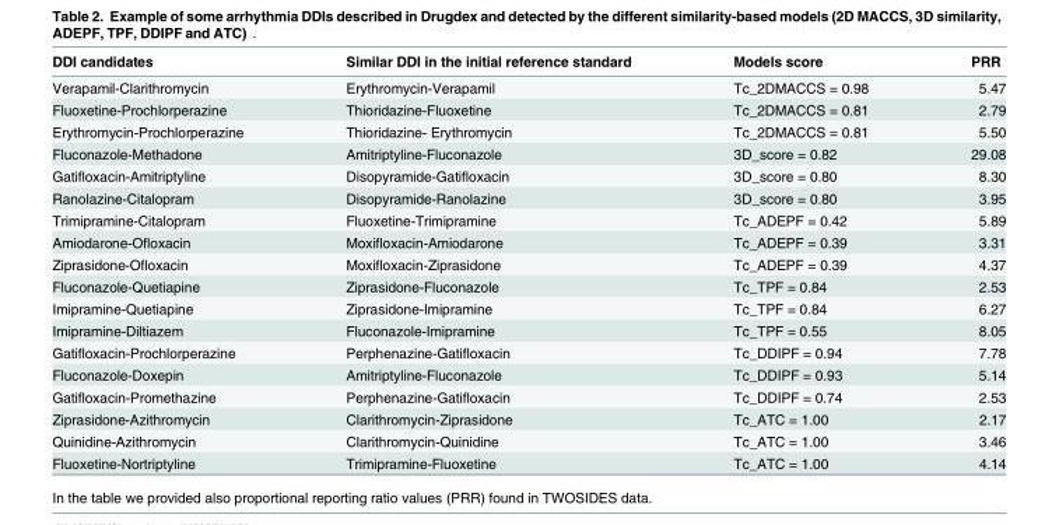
<table><thead><tr><td>DDI candidates</td><td>Similar DDI in the initial reference standard</td><td>Models score</td><td>PRR</td></tr></thead><tbody><tr><td>Verapamil-Clarithromycin</td><td>Erythromycin-Verapamil</td><td>Tc_2DMACCS = 0.98</td><td>5.47</td></tr><tr><td>Fluoxetine-Prochlorperazine</td><td>Thioridazine-Fluoxetine</td><td>Tc_2DMACCS = 0.81</td><td>2.79</td></tr><tr><td>Erythromycin-Prochlorperazine</td><td>Thioridazine- Erythromycin</td><td>Tc_2DMACCS = 0.81</td><td>5.50</td></tr><tr><td>Fluconazole-Methadone</td><td>Amitriptyline-Fluconazole</td><td>3D_score = 0.82</td><td>29.08</td></tr><tr><td>Gatifloxacin-Amitriptyline</td><td>Disopyramide-Gatifloxacin</td><td>3D_score = 0.80</td><td>8.30</td></tr><tr><td>Ranolazine-Citalopram</td><td>Disopyramide-Ranolazine</td><td>3D_score = 0.80</td><td>3.95</td></tr><tr><td>Trimipramine-Citalopram</td><td>Fluoxetine-Trimipramine</td><td>Tc_ADEPF = 0.42</td><td>5.89</td></tr><tr><td>Amiodarone-Ofloxacin</td><td>Moxifloxacin-Amiodarone</td><td>Tc_ADEPF = 0.39</td><td>3.31</td></tr><tr><td>Ziprasidone-Ofloxacin</td><td>Moxifloxacin-Ziprasidone</td><td>Tc_ADEPF = 0.39</td><td>4.37</td></tr><tr><td>Fluconazole-Quetiapine</td><td>Ziprasidone-Fluconazole</td><td>Tc_TPF = 0.84</td><td>2.53</td></tr><tr><td>Imipramine-Quetiapine</td><td>Ziprasidone-Imipramine</td><td>Tc_TPF = 0.84</td><td>6.27</td></tr><tr><td>Imipramine-Diltiazem</td><td>Fluconazole-Imipramine</td><td>Tc_TPF = 0.55</td><td>8.05</td></tr><tr><td>Gatifloxacin-Prochlorperazine</td><td>Perphenazine-Gatifloxacin</td><td>Tc_DDIPF = 0.94</td><td>7.78</td></tr><tr><td>Fluconazole-Doxepin</td><td>Amitriptyline-Fluconazole</td><td>Tc_DDIPF = 0.93</td><td>5.14</td></tr><tr><td>Gatifloxacin-Promethazine</td><td>Perphenazine-Gatifloxacin</td><td>Tc_DDIPF = 0.74</td><td>2.53</td></tr><tr><td>Ziprasidone-Azithromycin</td><td>Clarithromycin-Ziprasidone</td><td>Tc_ATC = 1.00</td><td>2.17</td></tr><tr><td>Quinidine-Azithromycin</td><td>Clarithromycin-Quinidine</td><td>Tc_ATC = 1.00</td><td>3.46</td></tr><tr><td>Fluoxetine-Nortriptyline</td><td>Trimipramine-Fluoxetine</td><td>Tc_ATC = 1.00</td><td>4.14</td></tr></tbody></table>